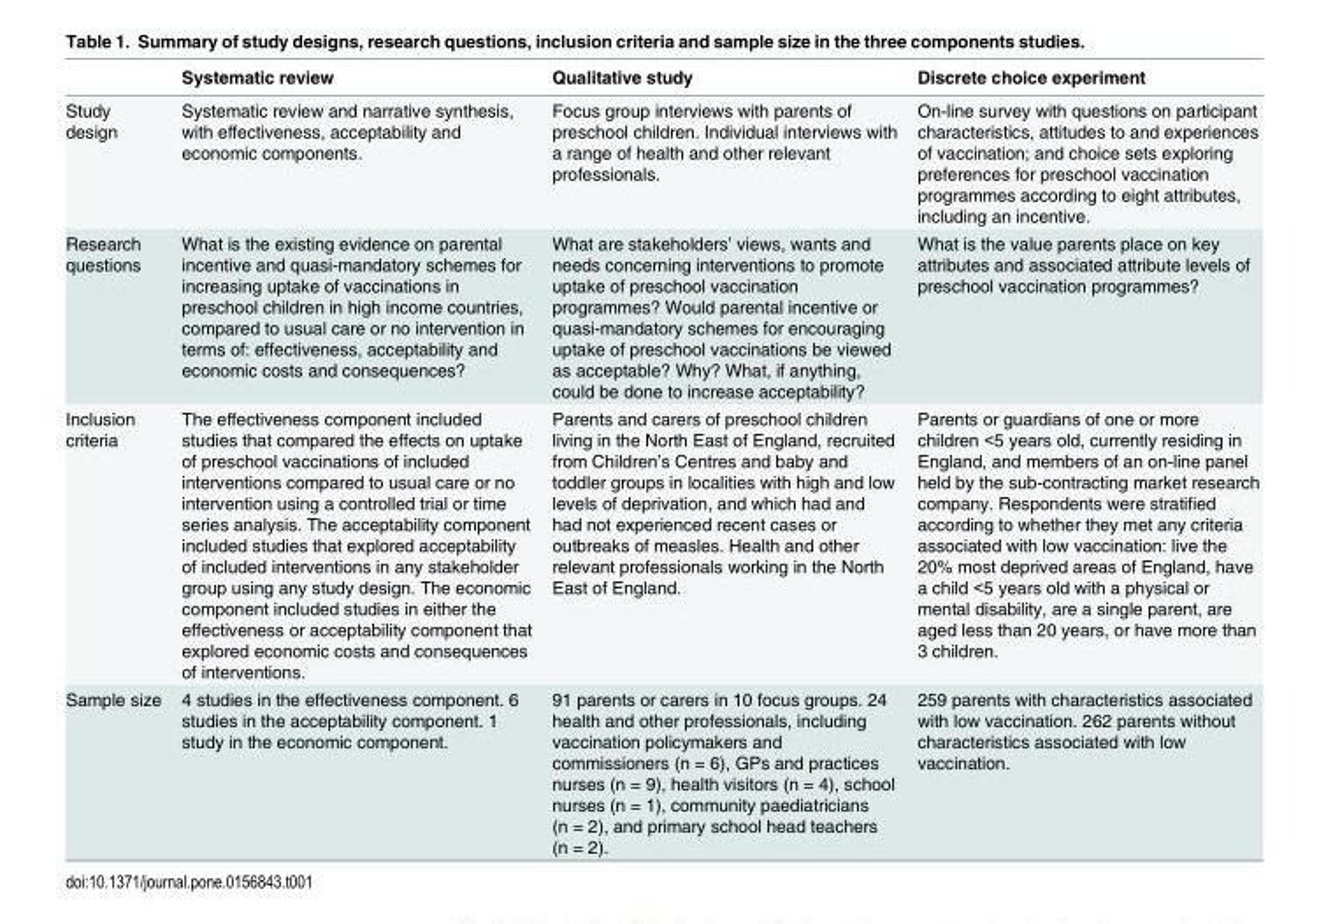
<table><thead><tr><td></td><td>Systematic review</td><td>Qualitative study</td><td>Discrete choice experiment</td></tr></thead><tbody><tr><td>Study design</td><td>Systematic review and narrative synthesis, with effectiveness, acceptability and economic components.</td><td>Focus group interviews with parents of preschool children. Individual interviews with a range of health and other relevant professionals.</td><td>On-line survey with questions on participant characteristics, attitudes to and experiences of vaccination; and choice sets exploring preferences for preschool vaccination programmes according to eight attributes, including an incentive.</td></tr><tr><td>Research questions</td><td>What is the existing evidence on parental incentive and quasi-mandatory schemes for increasing uptake of vaccinations in preschool children in high income countries, compared to usual care or no intervention in terms of: effectiveness, acceptability and economic costs and consequences?</td><td>What are stakeholders’ views, wants and needs concerning interventions to promote uptake of preschool vaccination programmes? Would parental incentive or quasi-mandatory schemes for encouraging uptake of preschool vaccinations be viewed as acceptable? Why? What, if anything, could be done to increase acceptability?</td><td>What is the value parents place on key attributes and associated attribute levels of preschool vaccination programmes?</td></tr><tr><td>Inclusion criteria</td><td>The effectiveness component included studies that compared the effects on uptake of preschool vaccinations of included interventions compared to usual care or no intervention using a controlled trial or time series analysis. The acceptability component included studies that explored acceptability of included interventions in any stakeholder group using any study design. The economic component included studies in either the effectiveness or acceptability component that explored economic costs and consequences of interventions.</td><td>Parents and carers of preschool children living in the North East of England, recruited from Children’s Centres and baby and toddler groups in localities with high and low levels of deprivation, and which had and had not experienced recent cases or outbreaks of measles. Health and other relevant professionals working in the North East of England.</td><td>Parents or guardians of one or more children &lt;5 years old, currently residing in England, and members of an on-line panel held by the sub-contracting market research company. Respondents were stratified according to whether they met any criteria associated with low vaccination: live the 20% most deprived areas of England, have a child &lt;5 years old with a physical or mental disability, are a single parent, are aged less than 20 years, or have more than 3 children.</td></tr><tr><td>Sample size</td><td>4 studies in the effectiveness component. 6 studies in the acceptability component. 1 study in the economic component.</td><td>91 parents or carers in 10 focus groups. 24 health and other professionals, including vaccination policymakers and commissioners (n = 6), GPs and practices nurses (n = 9), health visitors (n = 4), school nurses (n = 1), community paediatricians (n = 2), and primary school head teachers (n = 2).</td><td>259 parents with characteristics associated with low vaccination. 262 parents without characteristics associated with low vaccination.</td></tr></tbody></table>